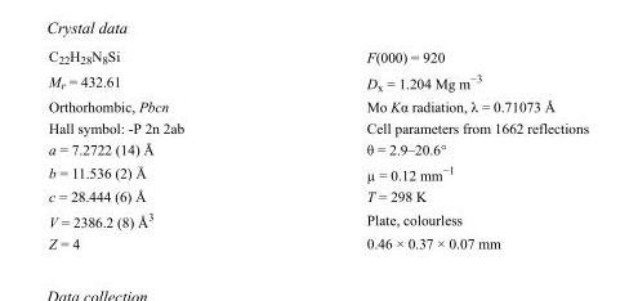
<table><tbody><tr><td>C<sub>22</sub>H<sub>28</sub>N<sub>8</sub>Si</td><td>F(000) = 920</td></tr><tr><td>M<sub>r</sub> = 432.61</td><td>D<sub>x</sub> = 1.204 Mg m<sup>−3</sup></td></tr><tr><td>Orthorhombic, Pbcn</td><td>Mo Kα radiation, λ = 0.71073 Å</td></tr><tr><td>Hall symbol: -P 2n 2ab</td><td>Cell parameters from 1662 reflections</td></tr><tr><td>a = 7.2722 (14) Å</td><td>θ = 2.9–20.6°</td></tr><tr><td>b = 11.536 (2) Å</td><td>µ = 0.12 mm<sup>−1</sup></td></tr><tr><td>c = 28.444 (6) Å</td><td>T = 298 K</td></tr><tr><td>V = 2386.2 (8) Å<sup>3</sup></td><td>Plate, colourless</td></tr><tr><td>Z = 4</td><td>0.46 × 0.37 × 0.07 mm</td></tr></tbody></table>